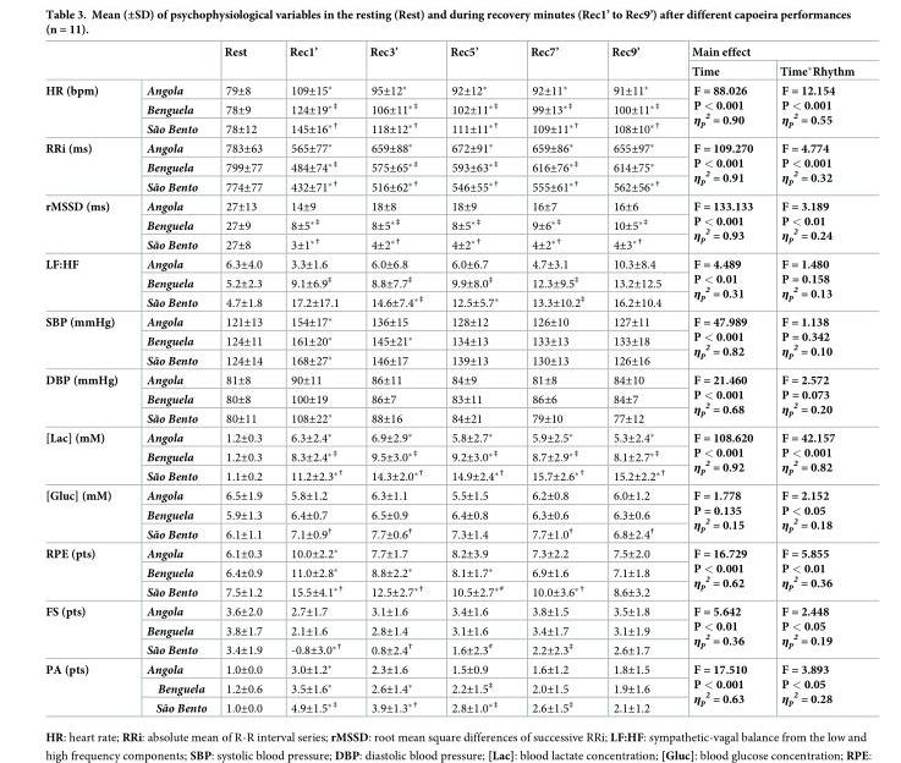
<table><thead><tr><td rowspan="2"></td><td rowspan="2"></td><td rowspan="2">Rest</td><td rowspan="2">Rec1’</td><td rowspan="2">Rec3’</td><td rowspan="2">Rec5’</td><td rowspan="2">Rec7’</td><td rowspan="2">Rec9’</td><td colspan="2">Main effect</td></tr><tr><td>Time</td><td>Time*Rhythm</td></tr></thead><tbody><tr><td rowspan="3">HR (bpm)</td><td>Angola</td><td>79±8</td><td>109±15*</td><td>95±12*</td><td>92±12*</td><td>92±11*</td><td>91±11*</td><td rowspan="3">F = 88.026 P &lt; 0.001 η<sub>p</sub> <sup>2</sup> = 0.90</td><td rowspan="3">F = 12.154 P &lt; 0.001 η<sub>p</sub> <sup>2</sup> = 0.55</td></tr><tr><td>Benguela</td><td>78±9</td><td>124±19*<sup>‡</sup></td><td>106±11*<sup>‡</sup></td><td>102±11*<sup>‡</sup></td><td>99±13*<sup>‡</sup></td><td>100±11*<sup>‡</sup></td></tr><tr><td>São Bento</td><td>78±12</td><td>145±16*<sup>†</sup></td><td>118±12*<sup>†</sup></td><td>111±11*<sup>†</sup></td><td>109±11*<sup>†</sup></td><td>108±10*<sup>†</sup></td></tr><tr><td rowspan="3">RRi (ms)</td><td>Angola</td><td>783±63</td><td>565±77*</td><td>659±88*</td><td>672±91*</td><td>659±86*</td><td>655±97*</td><td rowspan="3">F = 109.270 P &lt; 0.001 η<sub>p</sub> <sup>2</sup> = 0.91</td><td rowspan="3">F = 4.774 P &lt; 0.001 η<sub>p</sub> <sup>2</sup> = 0.32</td></tr><tr><td>Benguela</td><td>799±77</td><td>484±74*<sup>‡</sup></td><td>575±65*<sup>‡</sup></td><td>593±63*<sup>‡</sup></td><td>616±76*<sup>‡</sup></td><td>614±75*</td></tr><tr><td>São Bento</td><td>774±77</td><td>432±71*<sup>†</sup></td><td>516±62*<sup>†</sup></td><td>546±55*<sup>†</sup></td><td>555±61*<sup>†</sup></td><td>562±56*<sup>†</sup></td></tr><tr><td rowspan="3">rMSSD (ms)</td><td>Angola</td><td>27±13</td><td>14±9</td><td>18±8</td><td>18±9</td><td>16±7</td><td>16±6</td><td rowspan="3">F = 133.133 P &lt; 0.001 η<sub>p</sub> <sup>2</sup> = 0.93</td><td rowspan="3">F = 3.189 P &lt; 0.01 η<sub>p</sub> <sup>2</sup> = 0.24</td></tr><tr><td>Benguela</td><td>27±9</td><td>8±5*<sup>‡</sup></td><td>8±5*<sup>‡</sup></td><td>8±5*<sup>‡</sup></td><td>9±6*<sup>‡</sup></td><td>10±5*<sup>‡</sup></td></tr><tr><td>São Bento</td><td>27±8</td><td>3±1*<sup>†</sup></td><td>4±2*<sup>†</sup></td><td>4±2*<sup>†</sup></td><td>4±2*<sup>†</sup></td><td>4±3*<sup>†</sup></td></tr><tr><td rowspan="3">LF:HF</td><td>Angola</td><td>6.3±4.0</td><td>3.3±1.6</td><td>6.0±6.8</td><td>6.0±6.7</td><td>4.7±3.1</td><td>10.3±8.4</td><td rowspan="3">F = 4.489 P &lt; 0.01 η<sub>p</sub> <sup>2</sup> = 0.31</td><td rowspan="3">F = 1.480 P = 0.158 η<sub>p</sub> <sup>2</sup> = 0.13</td></tr><tr><td>Benguela</td><td>5.2±2.3</td><td>9.1±6.9<sup>‡</sup></td><td>8.8±7.7<sup>‡</sup></td><td>9.9±8.0<sup>‡</sup></td><td>12.3±9.5<sup>‡</sup></td><td>13.2±12.5</td></tr><tr><td>São Bento</td><td>4.7±1.8</td><td>17.2±17.1</td><td>14.6±7.4*<sup>‡</sup></td><td>12.5±5.7*</td><td>13.3±10.2<sup>‡</sup></td><td>16.2±10.4</td></tr><tr><td rowspan="3">SBP (mmHg)</td><td>Angola</td><td>121±13</td><td>154±17*</td><td>136±15</td><td>128±12</td><td>126±10</td><td>127±11</td><td rowspan="3">F = 47.989 P &lt; 0.001 η<sub>p</sub> <sup>2</sup> = 0.82</td><td rowspan="3">F = 1.138 P = 0.342 η<sub>p</sub> <sup>2</sup> = 0.10</td></tr><tr><td>Benguela</td><td>124±11</td><td>161±20*</td><td>145±21*</td><td>134±13</td><td>133±13</td><td>133±18</td></tr><tr><td>São Bento</td><td>124±14</td><td>168±27*</td><td>146±17</td><td>139±13</td><td>130±13</td><td>126±16</td></tr><tr><td rowspan="3">DBP (mmHg)</td><td>Angola</td><td>81±8</td><td>90±11</td><td>86±11</td><td>84±9</td><td>81±8</td><td>84±10</td><td rowspan="3">F = 21.460 P &lt; 0.001 η<sub>p</sub> <sup>2</sup> = 0.68</td><td rowspan="3">F = 2.572 P = 0.073 η<sub>p</sub> <sup>2</sup> = 0.20</td></tr><tr><td>Benguela</td><td>80±8</td><td>100±19</td><td>86±7</td><td>83±11</td><td>86±6</td><td>84±7</td></tr><tr><td>São Bento</td><td>80±11</td><td>108±22*</td><td>88±16</td><td>84±21</td><td>79±10</td><td>77±12</td></tr><tr><td rowspan="3">[Lac] (mM)</td><td>Angola</td><td>1.2±0.3</td><td>6.3±2.4*</td><td>6.9±2.9*</td><td>5.8±2.7*</td><td>5.9±2.5*</td><td>5.3±2.4*</td><td rowspan="3">F = 108.620 P &lt; 0.001 η<sub>p</sub> <sup>2</sup> = 0.92</td><td rowspan="3">F = 42.157 P &lt; 0.001 η<sub>p</sub> <sup>2</sup> = 0.82</td></tr><tr><td>Benguela</td><td>1.2±0.3</td><td>8.3±2.4*<sup>‡</sup></td><td>9.5±3.0*<sup>‡</sup></td><td>9.2±3.0*<sup>‡</sup></td><td>8.7±2.9*<sup>‡</sup></td><td>8.1±2.7*<sup>‡</sup></td></tr><tr><td>São Bento</td><td>1.1±0.2</td><td>11.2±2.3*<sup>†</sup></td><td>14.3±2.0*<sup>†</sup></td><td>14.9±2.4*<sup>†</sup></td><td>15.7±2.6*<sup>†</sup></td><td>15.2±2.2*<sup>†</sup></td></tr><tr><td rowspan="3">[Gluc] (mM)</td><td>Angola</td><td>6.5±1.9</td><td>5.8±1.2</td><td>6.3±1.1</td><td>5.5±1.5</td><td>6.2±0.8</td><td>6.0±1.2</td><td rowspan="3">F = 1.778 P = 0.135 η<sub>p</sub> <sup>2</sup> = 0.15</td><td rowspan="3">F = 2.152 P &lt; 0.05 η<sub>p</sub> <sup>2</sup> = 0.18</td></tr><tr><td>Benguela</td><td>5.9±1.3</td><td>6.4±0.7</td><td>6.5±0.9</td><td>6.4±0.8</td><td>6.3±0.6</td><td>6.3±0.6</td></tr><tr><td>São Bento</td><td>6.1±1.1</td><td>7.1±0.9<sup>†</sup></td><td>7.7±0.6<sup>†</sup></td><td>7.3±1.4</td><td>7.7±1.0<sup>†</sup></td><td>6.8±2.4<sup>†</sup></td></tr><tr><td rowspan="3">RPE (pts)</td><td>Angola</td><td>6.1±0.3</td><td>10.0±2.2*</td><td>7.7±1.7</td><td>8.2±3.9</td><td>7.3±2.2</td><td>7.5±2.0</td><td rowspan="3">F = 16.729 P &lt; 0.001 η<sub>p</sub> <sup>2</sup> = 0.62</td><td rowspan="3">F = 5.855 P &lt; 0.01 η<sub>p</sub> <sup>2</sup> = 0.36</td></tr><tr><td>Benguela</td><td>6.4±0.9</td><td>11.0±2.8*</td><td>8.8±2.2*</td><td>8.1±1.7*</td><td>6.9±1.6</td><td>7.1±1.8</td></tr><tr><td>São Bento</td><td>7.5±1.2</td><td>15.5±4.1*<sup>†</sup></td><td>12.5±2.7*<sup>†</sup></td><td>10.5±2.7*<sup>#</sup></td><td>10.0±3.6*<sup>†</sup></td><td>8.6±3.2</td></tr><tr><td rowspan="3">FS (pts)</td><td>Angola</td><td>3.6±2.0</td><td>2.7±1.7</td><td>3.1±1.6</td><td>3.4±1.6</td><td>3.8±1.5</td><td>3.5±1.8</td><td rowspan="3">F = 5.642 P &lt; 0.01 η<sub>p</sub> <sup>2</sup> = 0.36</td><td rowspan="3">F = 2.448 P &lt; 0.05 η<sub>p</sub> <sup>2</sup> = 0.19</td></tr><tr><td>Benguela</td><td>3.8±1.7</td><td>2.1±1.6</td><td>2.8±1.4</td><td>3.1±1.6</td><td>3.4±1.7</td><td>3.1±1.9</td></tr><tr><td>São Bento</td><td>3.4±1.9</td><td>-0.8±3.0*<sup>†</sup></td><td>0.8±2.4<sup>†</sup></td><td>1.6±2.3<sup>#</sup></td><td>2.2±2.3<sup>‡</sup></td><td>2.6±1.7</td></tr><tr><td rowspan="3">PA (pts)</td><td>Angola</td><td>1.0±0.0</td><td>3.0±1.2*</td><td>2.3±1.6</td><td>1.5±0.9</td><td>1.6±1.2</td><td>1.8±1.5</td><td rowspan="3">F = 17.510 P &lt; 0.001 η<sub>p</sub> <sup>2</sup> = 0.63</td><td rowspan="3">F = 3.893 P &lt; 0.05 η<sub>p</sub> <sup>2</sup> = 0.28</td></tr><tr><td>Benguela</td><td>1.2±0.6</td><td>3.5±1.6*</td><td>2.6±1.4*</td><td>2.2±1.5<sup>‡</sup></td><td>2.0±1.5</td><td>1.9±1.6</td></tr><tr><td>São Bento</td><td>1.0±0.0</td><td>4.9±1.5*<sup>‡</sup></td><td>3.9±1.3*<sup>†</sup></td><td>2.8±1.0*<sup>‡</sup></td><td>2.6±1.5<sup>‡</sup></td><td>2.1±1.2</td></tr></tbody></table>